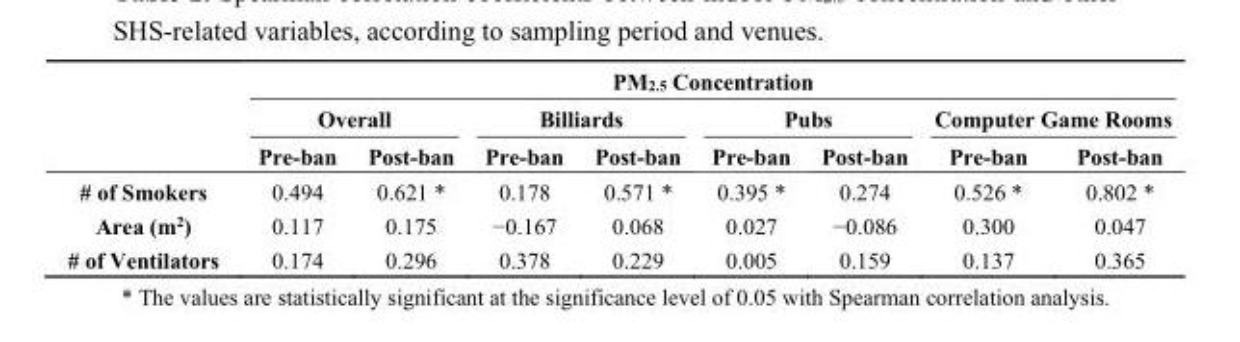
<table><thead><tr><td rowspan="3"></td><td colspan="8">PM<sub>2.5</sub> Concentration</td></tr><tr><td colspan="2">Overall</td><td colspan="2">Billiards</td><td colspan="2">Pubs</td><td colspan="2">Computer Game Rooms</td></tr><tr><td>Pre-ban</td><td>Post-ban</td><td>Pre-ban</td><td>Post-ban</td><td>Pre-ban</td><td>Post-ban</td><td>Pre-ban</td><td>Post-ban</td></tr></thead><tbody><tr><td># of Smokers</td><td>0.494</td><td>0.621 *</td><td>0.178</td><td>0.571 *</td><td>0.395 *</td><td>0.274</td><td>0.526 *</td><td>0.802 *</td></tr><tr><td>Area (m<sup>2</sup>)</td><td>0.117</td><td>0.175</td><td>−0.167</td><td>0.068</td><td>0.027</td><td>−0.086</td><td>0.300</td><td>0.047</td></tr><tr><td># of Ventilators</td><td>0.174</td><td>0.296</td><td>0.378</td><td>0.229</td><td>0.005</td><td>0.159</td><td>0.137</td><td>0.365</td></tr></tbody></table>